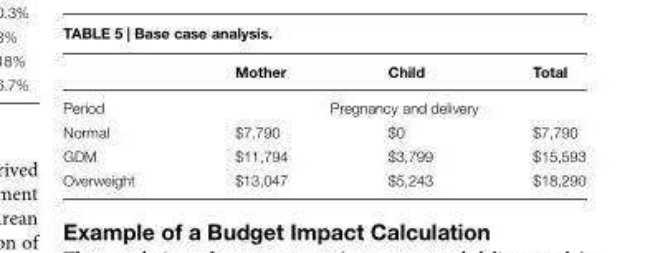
<table><thead><tr><td></td><td>Mother</td><td>Child</td><td>Total</td></tr></thead><tbody><tr><td colspan="2">Period</td><td colspan="2">Pregnancy and delivery</td></tr><tr><td>Normal</td><td>$7,790</td><td>$0</td><td>$7,790</td></tr><tr><td>GDM</td><td>$11,794</td><td>$3,799</td><td>$15,593</td></tr><tr><td>Overweight</td><td>$13,047</td><td>$5,243</td><td>$18,290</td></tr></tbody></table>